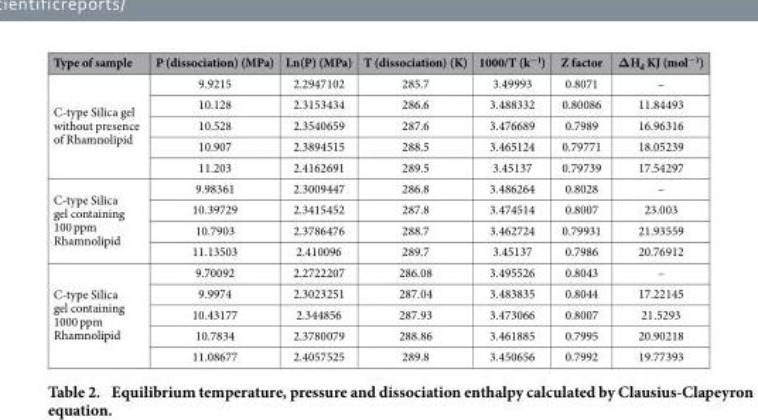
<table><thead><tr><td>Type of sample</td><td>P (dissociation) (MPa)</td><td>Ln(P) (MPa)</td><td>T (dissociation) (K)</td><td>1000/T (k<sup>−1</sup>)</td><td>Z factor</td><td>ΔH<sub>d</sub> KJ (mol<sup>−1</sup>)</td></tr></thead><tbody><tr><td rowspan="5">C-type Silica gel without presence of Rhamnolipid</td><td>9.9215</td><td>2.2947102</td><td>285.7</td><td>3.49993</td><td>0.8071</td><td>–</td></tr><tr><td>10.128</td><td>2.3153434</td><td>286.6</td><td>3.488332</td><td>0.80086</td><td>11.84493</td></tr><tr><td>10.528</td><td>2.3540659</td><td>287.6</td><td>3.476689</td><td>0.7989</td><td>16.96316</td></tr><tr><td>10.907</td><td>2.3894515</td><td>288.5</td><td>3.465124</td><td>0.79771</td><td>18.05239</td></tr><tr><td>11.203</td><td>2.4162691</td><td>289.5</td><td>3.45137</td><td>0.79739</td><td>17.54297</td></tr><tr><td rowspan="4">C-type Silica gel containing 100 ppm Rhamnolipid</td><td>9.98361</td><td>2.3009447</td><td>286.8</td><td>3.486264</td><td>0.8028</td><td>–</td></tr><tr><td>10.39729</td><td>2.3415452</td><td>287.8</td><td>3.474514</td><td>0.8007</td><td>23.003</td></tr><tr><td>10.7903</td><td>2.3786476</td><td>288.7</td><td>3.462724</td><td>0.79931</td><td>21.93559</td></tr><tr><td>11.13503</td><td>2.410096</td><td>289.7</td><td>3.45137</td><td>0.7986</td><td>20.76912</td></tr><tr><td rowspan="5">C-type Silica gel containing 1000 ppm Rhamnolipid</td><td>9.70092</td><td>2.2722207</td><td>286.08</td><td>3.495526</td><td>0.8043</td><td>–</td></tr><tr><td>9.9974</td><td>2.3023251</td><td>287.04</td><td>3.483835</td><td>0.8044</td><td>17.22145</td></tr><tr><td>10.43177</td><td>2.344856</td><td>287.93</td><td>3.473066</td><td>0.8007</td><td>21.5293</td></tr><tr><td>10.7834</td><td>2.3780079</td><td>288.86</td><td>3.461885</td><td>0.7995</td><td>20.90218</td></tr><tr><td>11.08677</td><td>2.4057525</td><td>289.8</td><td>3.450656</td><td>0.7992</td><td>19.77393</td></tr></tbody></table>